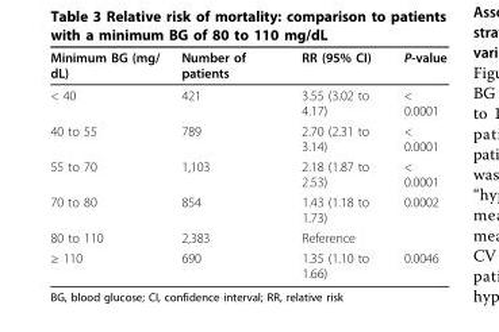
<table><thead><tr><td>Minimum BG (mg/ dL)</td><td>Number of patients</td><td>RR (95% CI)</td><td>P-value</td></tr></thead><tbody><tr><td>&lt; 40</td><td>421</td><td>3.55 (3.02 to 4.17)</td><td>&lt; 0.0001</td></tr><tr><td>40 to 55</td><td>789</td><td>2.70 (2.31 to 3.14)</td><td>&lt; 0.0001</td></tr><tr><td>55 to 70</td><td>1,103</td><td>2.18 (1.87 to 2.53)</td><td>&lt; 0.0001</td></tr><tr><td>70 to 80</td><td>854</td><td>1.43 (1.18 to 1.73)</td><td>0.0002</td></tr><tr><td>80 to 110</td><td>2,383</td><td>Reference</td><td></td></tr><tr><td>≥ 110</td><td>690</td><td>1.35 (1.10 to 1.66)</td><td>0.0046</td></tr></tbody></table>